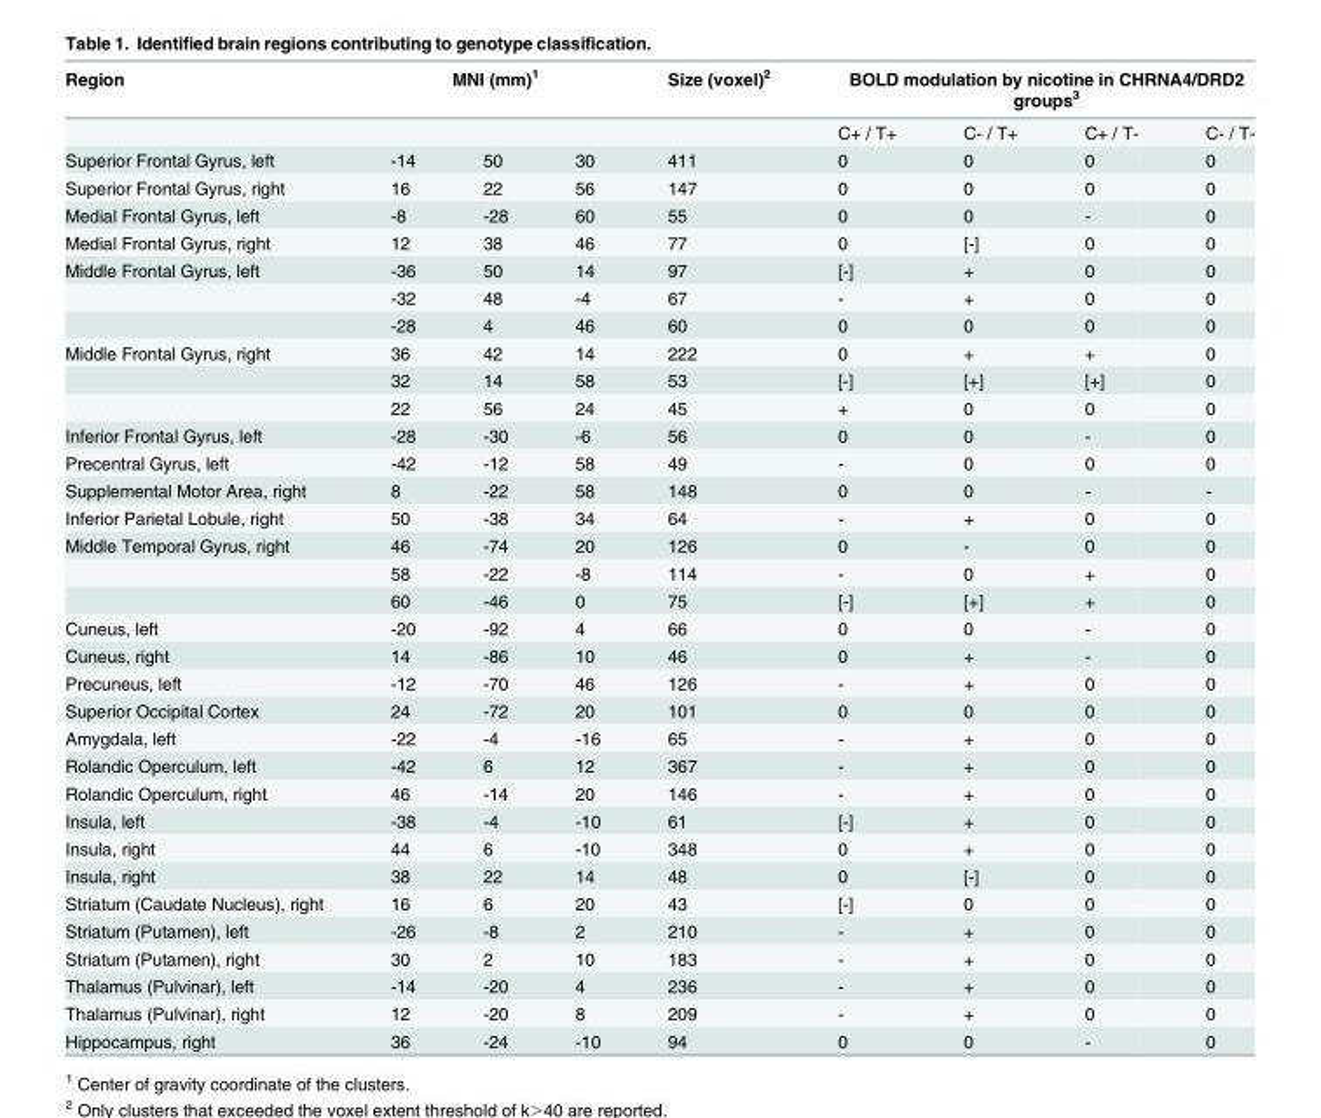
<table><thead><tr><td rowspan="2">Region</td><td colspan="3">MNI (mm)<sup>1</sup></td><td rowspan="2">Size (voxel)<sup>2</sup></td><td colspan="4">BOLD modulation by nicotine in CHRNA4/DRD2 groups<sup>3</sup></td></tr><tr><td></td><td></td><td></td><td>C+ / T+</td><td>C- / T+</td><td>C+ / T-</td><td>C- / T-</td></tr></thead><tbody><tr><td>Superior Frontal Gyrus, left</td><td>-14</td><td>50</td><td>30</td><td>411</td><td>0</td><td>0</td><td>0</td><td>0</td></tr><tr><td>Superior Frontal Gyrus, right</td><td>16</td><td>22</td><td>56</td><td>147</td><td>0</td><td>0</td><td>0</td><td>0</td></tr><tr><td>Medial Frontal Gyrus, left</td><td>-8</td><td>-28</td><td>60</td><td>55</td><td>0</td><td>0</td><td>-</td><td>0</td></tr><tr><td>Medial Frontal Gyrus, right</td><td>12</td><td>38</td><td>46</td><td>77</td><td>0</td><td>[-]</td><td>0</td><td>0</td></tr><tr><td rowspan="3">Middle Frontal Gyrus, left</td><td>-36</td><td>50</td><td>14</td><td>97</td><td>[-]</td><td>+</td><td>0</td><td>0</td></tr><tr><td>-32</td><td>48</td><td>-4</td><td>67</td><td>-</td><td>+</td><td>0</td><td>0</td></tr><tr><td>-28</td><td>4</td><td>46</td><td>60</td><td>0</td><td>0</td><td>0</td><td>0</td></tr><tr><td rowspan="3">Middle Frontal Gyrus, right</td><td>36</td><td>42</td><td>14</td><td>222</td><td>0</td><td>+</td><td>+</td><td>0</td></tr><tr><td>32</td><td>14</td><td>58</td><td>53</td><td>[-]</td><td>[+]</td><td>[+]</td><td>0</td></tr><tr><td>22</td><td>56</td><td>24</td><td>45</td><td>+</td><td>0</td><td>0</td><td>0</td></tr><tr><td>Inferior Frontal Gyrus, left</td><td>-28</td><td>-30</td><td>-6</td><td>56</td><td>0</td><td>0</td><td>-</td><td>0</td></tr><tr><td>Precentral Gyrus, left</td><td>-42</td><td>-12</td><td>58</td><td>49</td><td>-</td><td>0</td><td>0</td><td>0</td></tr><tr><td>Supplemental Motor Area, right</td><td>8</td><td>-22</td><td>58</td><td>148</td><td>0</td><td>0</td><td>-</td><td>-</td></tr><tr><td>Inferior Parietal Lobule, right</td><td>50</td><td>-38</td><td>34</td><td>64</td><td>-</td><td>+</td><td>0</td><td>0</td></tr><tr><td rowspan="3">Middle Temporal Gyrus, right</td><td>46</td><td>-74</td><td>20</td><td>126</td><td>0</td><td>-</td><td>0</td><td>0</td></tr><tr><td>58</td><td>-22</td><td>-8</td><td>114</td><td>-</td><td>0</td><td>+</td><td>0</td></tr><tr><td>60</td><td>-46</td><td>0</td><td>75</td><td>[-]</td><td>[+]</td><td>+</td><td>0</td></tr><tr><td>Cuneus, left</td><td>-20</td><td>-92</td><td>4</td><td>66</td><td>0</td><td>0</td><td>-</td><td>0</td></tr><tr><td>Cuneus, right</td><td>14</td><td>-86</td><td>10</td><td>46</td><td>0</td><td>+</td><td>-</td><td>0</td></tr><tr><td>Precuneus, left</td><td>-12</td><td>-70</td><td>46</td><td>126</td><td>-</td><td>+</td><td>0</td><td>0</td></tr><tr><td>Superior Occipital Cortex</td><td>24</td><td>-72</td><td>20</td><td>101</td><td>0</td><td>0</td><td>0</td><td>0</td></tr><tr><td>Amygdala, left</td><td>-22</td><td>-4</td><td>-16</td><td>65</td><td>-</td><td>+</td><td>0</td><td>0</td></tr><tr><td>Rolandic Operculum, left</td><td>-42</td><td>6</td><td>12</td><td>367</td><td>-</td><td>+</td><td>0</td><td>0</td></tr><tr><td>Rolandic Operculum, right</td><td>46</td><td>-14</td><td>20</td><td>146</td><td>-</td><td>+</td><td>0</td><td>0</td></tr><tr><td>Insula, left</td><td>-38</td><td>-4</td><td>-10</td><td>61</td><td>[-]</td><td>+</td><td>0</td><td>0</td></tr><tr><td>Insula, right</td><td>44</td><td>6</td><td>-10</td><td>348</td><td>0</td><td>+</td><td>0</td><td>0</td></tr><tr><td>Insula, right</td><td>38</td><td>22</td><td>14</td><td>48</td><td>0</td><td>[-]</td><td>0</td><td>0</td></tr><tr><td>Striatum (Caudate Nucleus), right</td><td>16</td><td>6</td><td>20</td><td>43</td><td>[-]</td><td>0</td><td>0</td><td>0</td></tr><tr><td>Striatum (Putamen), left</td><td>-26</td><td>-8</td><td>2</td><td>210</td><td>-</td><td>+</td><td>0</td><td>0</td></tr><tr><td>Striatum (Putamen), right</td><td>30</td><td>2</td><td>10</td><td>183</td><td>-</td><td>+</td><td>0</td><td>0</td></tr><tr><td>Thalamus (Pulvinar), left</td><td>-14</td><td>-20</td><td>4</td><td>236</td><td>-</td><td>+</td><td>0</td><td>0</td></tr><tr><td>Thalamus (Pulvinar), right</td><td>12</td><td>-20</td><td>8</td><td>209</td><td>-</td><td>+</td><td>0</td><td>0</td></tr><tr><td>Hippocampus, right</td><td>36</td><td>-24</td><td>-10</td><td>94</td><td>0</td><td>0</td><td>-</td><td>0</td></tr></tbody></table>